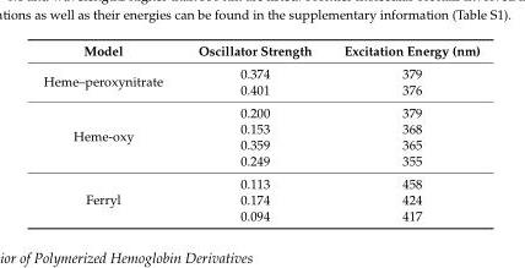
<table><thead><tr><td>Model</td><td>Oscillator Strength</td><td>Excitation Energy (nm)</td></tr></thead><tbody><tr><td rowspan="2">Heme–peroxynitrate</td><td>0.374</td><td>379</td></tr><tr><td>0.401</td><td>376</td></tr><tr><td rowspan="4">Heme-oxy</td><td>0.200</td><td>379</td></tr><tr><td>0.153</td><td>368</td></tr><tr><td>0.359</td><td>365</td></tr><tr><td>0.249</td><td>355</td></tr><tr><td rowspan="3">Ferryl</td><td>0.113</td><td>458</td></tr><tr><td>0.174</td><td>424</td></tr><tr><td>0.094</td><td>417</td></tr></tbody></table>